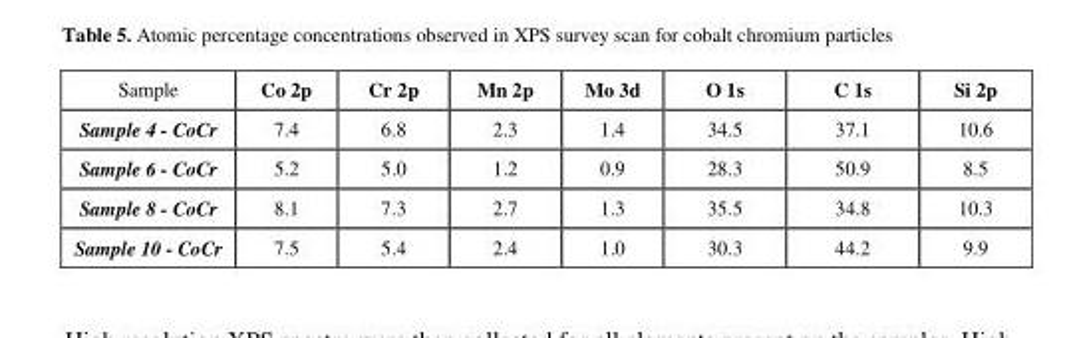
<table><thead><tr><td>Sample</td><td>Co 2p</td><td>Cr 2p</td><td>Mn 2p</td><td>Mo 3d</td><td>O 1s</td><td>C 1s</td><td>Si 2p</td></tr></thead><tbody><tr><td>Sample 4 - CoCr</td><td>7.4</td><td>6.8</td><td>2.3</td><td>1.4</td><td>34.5</td><td>37.1</td><td>10.6</td></tr><tr><td>Sample 6 - CoCr</td><td>5.2</td><td>5.0</td><td>1.2</td><td>0.9</td><td>28.3</td><td>50.9</td><td>8.5</td></tr><tr><td>Sample 8 - CoCr</td><td>8.1</td><td>7.3</td><td>2.7</td><td>1.3</td><td>35.5</td><td>34.8</td><td>10.3</td></tr><tr><td>Sample 10 - CoCr</td><td>7.5</td><td>5.4</td><td>2.4</td><td>1.0</td><td>30.3</td><td>44.2</td><td>9.9</td></tr></tbody></table>